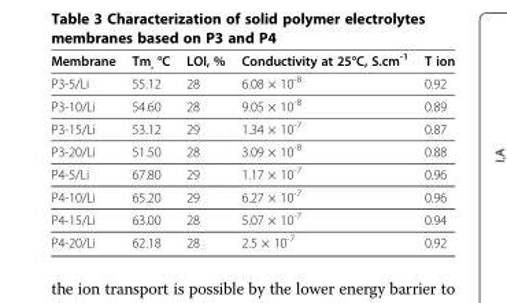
<table><thead><tr><td>Membrane</td><td>Tm<sub>,</sub> °C</td><td>LOI, %</td><td>Conductivity at 25°C, S.cm<sup>-1</sup></td><td>T ion</td></tr></thead><tbody><tr><td>P3-5/Li</td><td>55.12</td><td>28</td><td>6.08 × 10<sup>-8</sup></td><td>0.92</td></tr><tr><td>P3-10/Li</td><td>54.60</td><td>28</td><td>9.05 × 10<sup>-8</sup></td><td>0.89</td></tr><tr><td>P3-15/Li</td><td>53.12</td><td>29</td><td>1.34 × 10<sup>-7</sup></td><td>0.87</td></tr><tr><td>P3-20/Li</td><td>51.50</td><td>28</td><td>3.09 × 10<sup>-8</sup></td><td>0.88</td></tr><tr><td>P4-5/Li</td><td>67.80</td><td>29</td><td>1.17 × 10<sup>-7</sup></td><td>0.96</td></tr><tr><td>P4-10/Li</td><td>65.20</td><td>29</td><td>6.27 × 10<sup>-7</sup></td><td>0.96</td></tr><tr><td>P4-15/Li</td><td>63.00</td><td>28</td><td>5.07 × 10<sup>-7</sup></td><td>0.94</td></tr><tr><td>P4-20/Li</td><td>62.18</td><td>28</td><td>2.5 × 10<sup>-7</sup></td><td>0.92</td></tr></tbody></table>